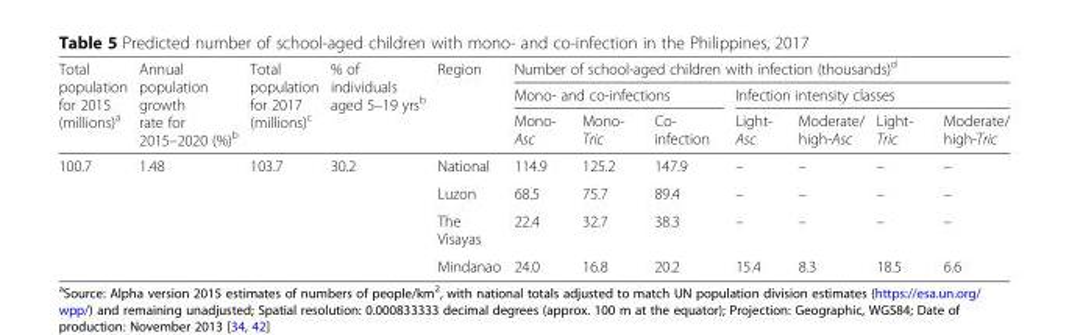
<table><thead><tr><td rowspan="3">Total population for 2015 (millions)<sup>a</sup></td><td rowspan="3">Annual population growth rate for 2015–2020 (%)<sup>b</sup></td><td rowspan="3">Total population for 2017 (millions)<sup>c</sup></td><td rowspan="3">% of individuals aged 5–19 yrs<sup>b</sup></td><td rowspan="3">Region</td><td colspan="7">Number of school-aged children with infection (thousands)<sup>d</sup></td></tr><tr><td colspan="3">Mono- and co-infections</td><td colspan="4">Infection intensity classes</td></tr><tr><td>Mono- Asc</td><td>Mono- Tric</td><td>Co- infection</td><td>Light- Asc</td><td>Moderate/ high-Asc</td><td>Light- Tric</td><td>Moderate/ high-Tric</td></tr></thead><tbody><tr><td rowspan="4">100.7</td><td rowspan="4">1.48</td><td rowspan="4">103.7</td><td rowspan="4">30.2</td><td>National</td><td>114.9</td><td>125.2</td><td>147.9</td><td>–</td><td>–</td><td>–</td><td>–</td></tr><tr><td>Luzon</td><td>68.5</td><td>75.7</td><td>89.4</td><td>–</td><td>–</td><td>–</td><td>–</td></tr><tr><td>The Visayas</td><td>22.4</td><td>32.7</td><td>38.3</td><td>–</td><td>–</td><td>–</td><td>–</td></tr><tr><td>Mindanao</td><td>24.0</td><td>16.8</td><td>20.2</td><td>15.4</td><td>8.3</td><td>18.5</td><td>6.6</td></tr></tbody></table>